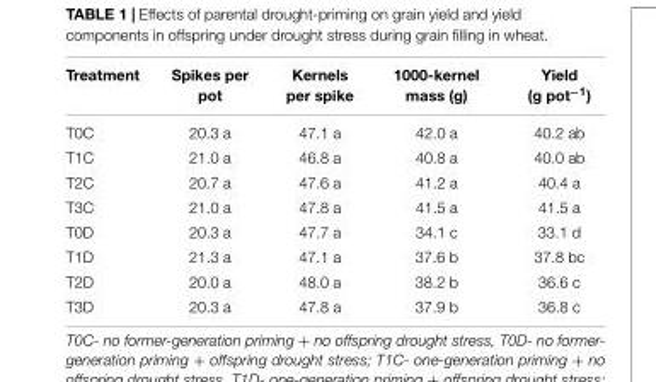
<table><thead><tr><td>Treatment</td><td>Spikes per pot</td><td>Kernels per spike</td><td>1000-kernel mass (g)</td><td>Yield (g pot<sup>−1</sup>)</td></tr></thead><tbody><tr><td>T0C</td><td>20.3 a</td><td>47.1 a</td><td>42.0 a</td><td>40.2 ab</td></tr><tr><td>T1C</td><td>21.0 a</td><td>46.8 a</td><td>40.8 a</td><td>40.0 ab</td></tr><tr><td>T2C</td><td>20.7 a</td><td>47.6 a</td><td>41.2 a</td><td>40.4 a</td></tr><tr><td>T3C</td><td>21.0 a</td><td>47.8 a</td><td>41.5 a</td><td>41.5 a</td></tr><tr><td>T0D</td><td>20.3 a</td><td>47.7 a</td><td>34.1 c</td><td>33.1 d</td></tr><tr><td>T1D</td><td>21.3 a</td><td>47.1 a</td><td>37.6 b</td><td>37.8 bc</td></tr><tr><td>T2D</td><td>20.0 a</td><td>48.0 a</td><td>38.2 b</td><td>36.6 c</td></tr><tr><td>T3D</td><td>20.3 a</td><td>47.8 a</td><td>37.9 b</td><td>36.8 c</td></tr></tbody></table>